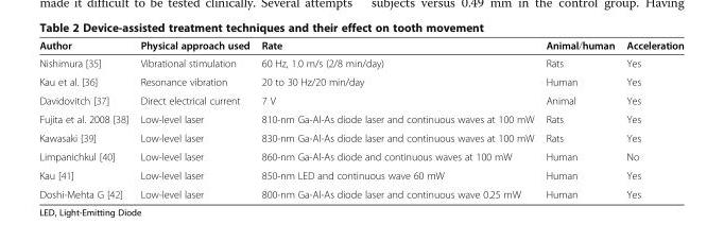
<table><thead><tr><td>Author</td><td>Physical approach used</td><td>Rate</td><td>Animal/human</td><td>Acceleration</td></tr></thead><tbody><tr><td>Nishimura [35]</td><td>Vibrational stimulation</td><td>60 Hz, 1.0 m/s (2/8 min/day)</td><td>Rats</td><td>Yes</td></tr><tr><td>Kau et al. [36]</td><td>Resonance vibration</td><td>20 to 30 Hz/20 min/day</td><td>Human</td><td>Yes</td></tr><tr><td>Davidovitch [37]</td><td>Direct electrical current</td><td>7 V</td><td>Animal</td><td>Yes</td></tr><tr><td>Fujita et al. 2008 [38]</td><td>Low-level laser</td><td>810-nm Ga-Al-As diode laser and continuous waves at 100 mW</td><td>Rats</td><td>Yes</td></tr><tr><td>Kawasaki [39]</td><td>Low-level laser</td><td>830-nm Ga-Al-As diode laser and continuous waves at 100 mW</td><td>Rats</td><td>Yes</td></tr><tr><td>Limpanichkul [40]</td><td>Low-level laser</td><td>860-nm Ga-Al-As diode and continuous waves at 100 mW</td><td>Human</td><td>No</td></tr><tr><td>Kau [41]</td><td>Low-level laser</td><td>850-nm LED and continuous wave 60 mW</td><td>Human</td><td>Yes</td></tr><tr><td>Doshi-Mehta G [42]</td><td>Low-level laser</td><td>800-nm Ga-Al-As diode laser and continuous wave 0.25 mW</td><td>Human</td><td>Yes</td></tr></tbody></table>